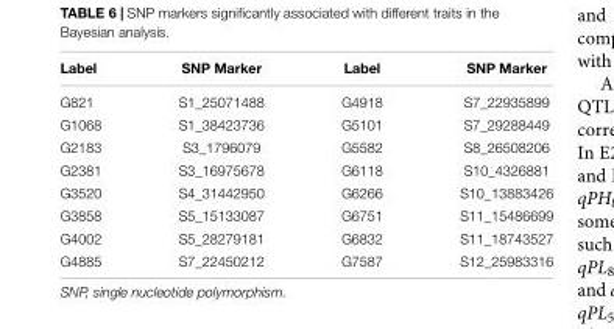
<table><thead><tr><td>Label</td><td>SNP Marker</td><td>Label</td><td>SNP Marker</td></tr></thead><tbody><tr><td>G821</td><td>S1_25071488</td><td>G4918</td><td>S7_22935899</td></tr><tr><td>G1068</td><td>S1_38423736</td><td>G5101</td><td>S7_29288449</td></tr><tr><td>G2183</td><td>S3_1796079</td><td>G5582</td><td>S8_26508206</td></tr><tr><td>G2381</td><td>S3_16975678</td><td>G6118</td><td>S10_4326881</td></tr><tr><td>G3520</td><td>S4_31442950</td><td>G6266</td><td>S10_13883426</td></tr><tr><td>G3858</td><td>S5_15133087</td><td>G6751</td><td>S11_15486699</td></tr><tr><td>G4002</td><td>S5_28279181</td><td>G6832</td><td>S11_18743527</td></tr><tr><td>G4885</td><td>S7_22450212</td><td>G7587</td><td>S12_25983316</td></tr></tbody></table>